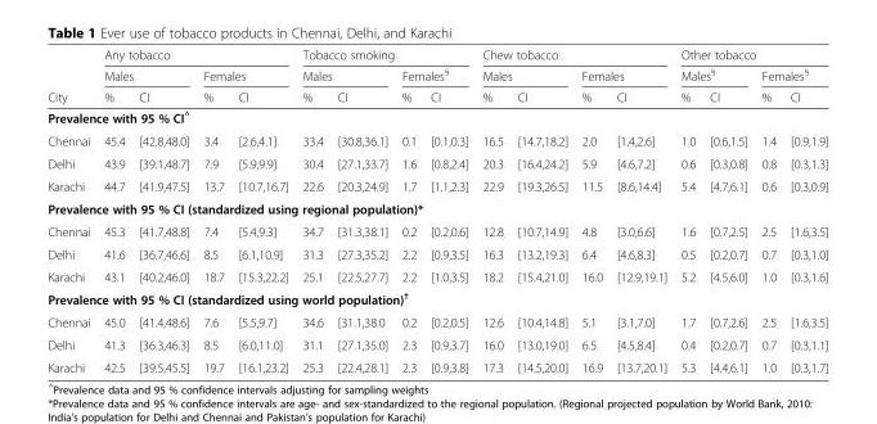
<table><thead><tr><td rowspan="3">City</td><td colspan="4">Any tobacco</td><td colspan="4">Tobacco smoking</td><td colspan="4">Chew tobacco</td><td colspan="4">Other tobacco</td></tr><tr><td colspan="2">Males</td><td colspan="2">Females</td><td colspan="2">Males</td><td colspan="2">Females<sup>§</sup></td><td colspan="2">Males</td><td colspan="2">Females</td><td colspan="2">Males<sup>§</sup></td><td colspan="2">Females<sup>§</sup></td></tr><tr><td>%</td><td>CI</td><td>%</td><td>CI</td><td>%</td><td>CI</td><td>%</td><td>CI</td><td>%</td><td>CI</td><td>%</td><td>CI</td><td>%</td><td>CI</td><td>%</td><td>CI</td></tr></thead><tbody><tr><td colspan="17">Prevalence with 95 % CI<sup>^</sup></td></tr><tr><td>Chennai</td><td>45.4</td><td>[42.8,48.0]</td><td>3.4</td><td>[2.6,4.1]</td><td>33.4</td><td>[30.8,36.1]</td><td>0.1</td><td>[0.1,0.3]</td><td>16.5</td><td>[14.7,18.2]</td><td>2.0</td><td>[1.4,2.6]</td><td>1.0</td><td>[0.6,1.5]</td><td>1.4</td><td>[0.9,1.9]</td></tr><tr><td>Delhi</td><td>43.9</td><td>[39.1,48.7]</td><td>7.9</td><td>[5.9,9.9]</td><td>30.4</td><td>[27.1,33.7]</td><td>1.6</td><td>[0.8,2.4]</td><td>20.3</td><td>[16.4,24.2]</td><td>5.9</td><td>[4.6,7.2]</td><td>0.6</td><td>[0.3,0.8]</td><td>0.8</td><td>[0.3,1.3]</td></tr><tr><td>Karachi</td><td>44.7</td><td>[41.9,47.5]</td><td>13.7</td><td>[10.7,16.7]</td><td>22.6</td><td>[20.3,24.9]</td><td>1.7</td><td>[1.1,2.3]</td><td>22.9</td><td>[19.3,26.5]</td><td>11.5</td><td>[8.6,14.4]</td><td>5.4</td><td>[4.7,6.1]</td><td>0.6</td><td>[0.3,0.9]</td></tr><tr><td colspan="17">Prevalence with 95 % CI (standardized using regional population)*</td></tr><tr><td>Chennai</td><td>45.3</td><td>[41.7,48.8]</td><td>7.4</td><td>[5.4,9.3]</td><td>34.7</td><td>[31.3,38.1]</td><td>0.2</td><td>[0.2,0.6]</td><td>12.8</td><td>[10.7,14.9]</td><td>4.8</td><td>[3.0,6.6]</td><td>1.6</td><td>[0.7,2.5]</td><td>2.5</td><td>[1.6,3.5]</td></tr><tr><td>Delhi</td><td>41.6</td><td>[36.7,46.6]</td><td>8.5</td><td>[6.1,10.9]</td><td>31.3</td><td>[27.3,35.2]</td><td>2.2</td><td>[0.9,3.5]</td><td>16.3</td><td>[13.2,19.3]</td><td>6.4</td><td>[4.6,8.3]</td><td>0.5</td><td>[0.2,0.7]</td><td>0.7</td><td>[0.3,1.0]</td></tr><tr><td>Karachi</td><td>43.1</td><td>[40.2,46.0]</td><td>18.7</td><td>[15.3,22.2]</td><td>25.1</td><td>[22.5,27.7]</td><td>2.2</td><td>[1.0,3.5]</td><td>18.2</td><td>[15.4,21.0]</td><td>16.0</td><td>[12.9,19.1]</td><td>5.2</td><td>[4.5,6.0]</td><td>1.0</td><td>[0.3,1.6]</td></tr><tr><td colspan="17">Prevalence with 95 % CI (standardized using world population)<sup>†</sup></td></tr><tr><td>Chennai</td><td>45.0</td><td>[41.4,48.6]</td><td>7.6</td><td>[5.5,9.7]</td><td>34.6</td><td>[31.1,38.0</td><td>0.2</td><td>[0.2,0.5]</td><td>12.6</td><td>[10.4,14.8]</td><td>5.1</td><td>[3.1,7.0]</td><td>1.7</td><td>[0.7,2.6]</td><td>2.5</td><td>[1.6,3.5]</td></tr><tr><td>Delhi</td><td>41.3</td><td>[36.3,46.3]</td><td>8.5</td><td>[6.0,11.0]</td><td>31.1</td><td>[27.1,35.0]</td><td>2.3</td><td>[0.9,3.7]</td><td>16.0</td><td>[13.0,19.0]</td><td>6.5</td><td>[4.5,8.4]</td><td>0.4</td><td>[0.2,0.7]</td><td>0.7</td><td>[0.3,1.1]</td></tr><tr><td>Karachi</td><td>42.5</td><td>[39.5,45.5]</td><td>19.7</td><td>[16.1,23.2]</td><td>25.3</td><td>[22.4,28.1]</td><td>2.3</td><td>[0.9,3.8]</td><td>17.3</td><td>[14.5,20.0]</td><td>16.9</td><td>[13.7,20.1]</td><td>5.3</td><td>[4.4,6.1]</td><td>1.0</td><td>[0.3,1.7]</td></tr></tbody></table>